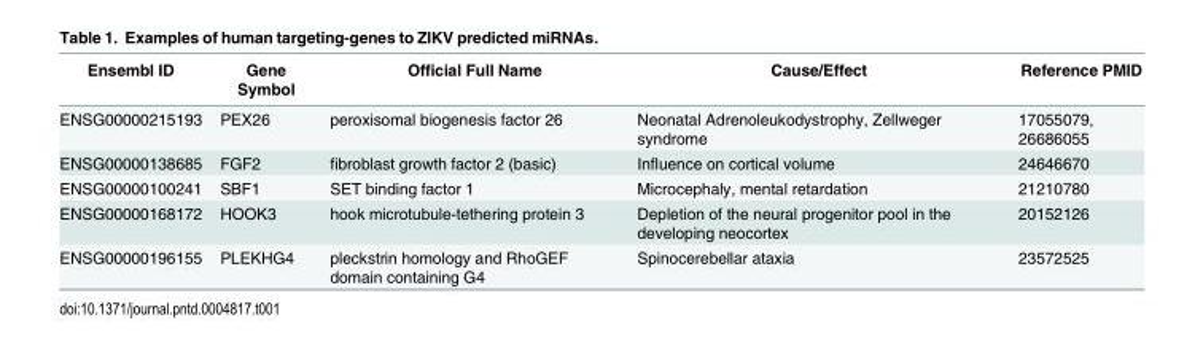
<table><thead><tr><td>Ensembl ID</td><td>Gene Symbol</td><td>Official Full Name</td><td>Cause/Effect</td><td>Reference PMID</td></tr></thead><tbody><tr><td>ENSG00000215193</td><td>PEX26</td><td>peroxisomal biogenesis factor 26</td><td>Neonatal Adrenoleukodystrophy, Zellweger syndrome</td><td>17055079, 26686055</td></tr><tr><td>ENSG00000138685</td><td>FGF2</td><td>fibroblast growth factor 2 (basic)</td><td>Influence on cortical volume</td><td>24646670</td></tr><tr><td>ENSG00000100241</td><td>SBF1</td><td>SET binding factor 1</td><td>Microcephaly, mental retardation</td><td>21210780</td></tr><tr><td>ENSG00000168172</td><td>HOOK3</td><td>hook microtubule-tethering protein 3</td><td>Depletion of the neural progenitor pool in the developing neocortex</td><td>20152126</td></tr><tr><td>ENSG00000196155</td><td>PLEKHG4</td><td>pleckstrin homology and RhoGEF domain containing G4</td><td>Spinocerebellar ataxia</td><td>23572525</td></tr></tbody></table>